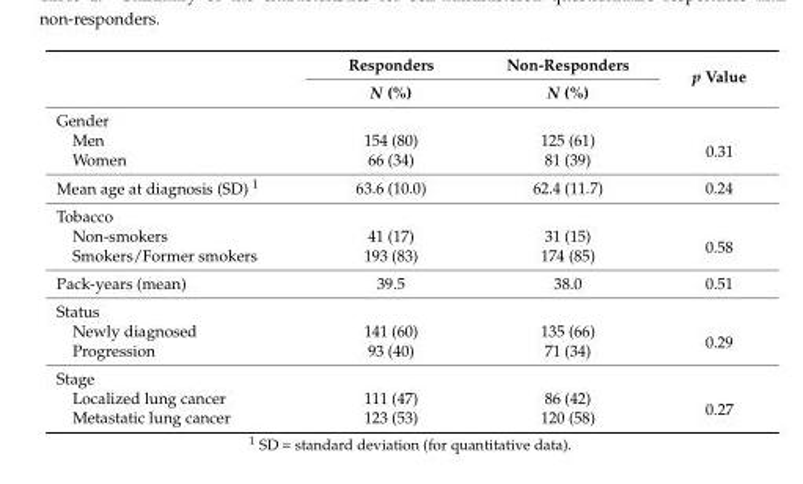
<table><thead><tr><td rowspan="2"></td><td rowspan="2">Responders N (%)</td><td rowspan="2">Non-Responders N (%)</td><td rowspan="2">p Value</td></tr><tr></tr></thead><tbody><tr><td colspan="4">Gender</td></tr><tr><td>Men</td><td>154 (80)</td><td>125 (61)</td><td rowspan="2">0.31</td></tr><tr><td>Women</td><td>66 (34)</td><td>81 (39)</td></tr><tr><td>Mean age at diagnosis (SD) <sup>1</sup></td><td>63.6 (10.0)</td><td>62.4 (11.7)</td><td>0.24</td></tr><tr><td colspan="4">Tobacco</td></tr><tr><td>Non-smokers</td><td>41 (17)</td><td>31 (15)</td><td rowspan="2">0.58</td></tr><tr><td>Smokers/Former smokers</td><td>193 (83)</td><td>174 (85)</td></tr><tr><td>Pack-years (mean)</td><td>39.5</td><td>38.0</td><td>0.51</td></tr><tr><td colspan="4">Status</td></tr><tr><td>Newly diagnosed</td><td>141 (60)</td><td>135 (66)</td><td rowspan="2">0.29</td></tr><tr><td>Progression</td><td>93 (40)</td><td>71 (34)</td></tr><tr><td colspan="4">Stage</td></tr><tr><td>Localized lung cancer</td><td>111 (47)</td><td>86 (42)</td><td rowspan="2">0.27</td></tr><tr><td>Metastatic lung cancer</td><td>123 (53)</td><td>120 (58)</td></tr></tbody></table>